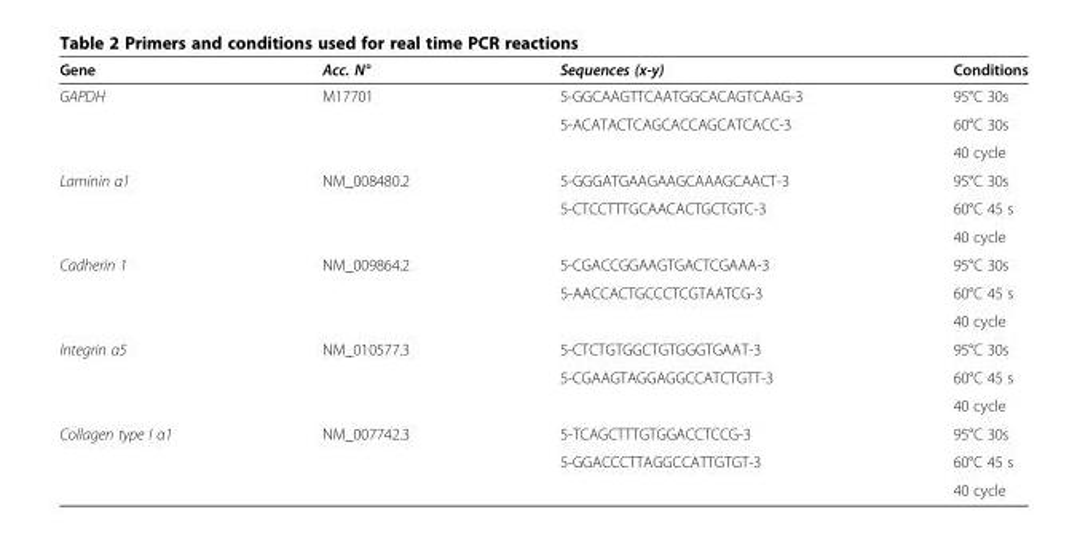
<table><thead><tr><td>Gene</td><td>Acc. N°</td><td>Sequences (x-y)</td><td>Conditions</td></tr></thead><tbody><tr><td rowspan="3">GAPDH</td><td rowspan="3">M17701</td><td>5-GGCAAGTTCAATGGCACAGTCAAG-3</td><td>95°C 30s</td></tr><tr><td rowspan="2">5-ACATACTCAGCACCAGCATCACC-3</td><td>60°C 30s</td></tr><tr><td>40 cycle</td></tr><tr><td rowspan="3">Laminin α1</td><td rowspan="3">NM_008480.2</td><td>5-GGGATGAAGAAGCAAAGCAACT-3</td><td>95°C 30s</td></tr><tr><td rowspan="2">5-CTCCTTTGCAACACTGCTGTC-3</td><td>60°C 45 s</td></tr><tr><td>40 cycle</td></tr><tr><td rowspan="3">Cadherin 1</td><td rowspan="3">NM_009864.2</td><td>5-CGACCGGAAGTGACTCGAAA-3</td><td>95°C 30s</td></tr><tr><td rowspan="2">5-AACCACTGCCCTCGTAATCG-3</td><td>60°C 45 s</td></tr><tr><td>40 cycle</td></tr><tr><td rowspan="3">Integrin α5</td><td rowspan="3">NM_010577.3</td><td>5-CTCTGTGGCTGTGGGTGAAT-3</td><td>95°C 30s</td></tr><tr><td rowspan="2">5-CGAAGTAGGAGGCCATCTGTT-3</td><td>60°C 45 s</td></tr><tr><td>40 cycle</td></tr><tr><td rowspan="3">Collagen type I α1</td><td rowspan="3">NM_007742.3</td><td>5-TCAGCTTTGTGGACCTCCG-3</td><td>95°C 30s</td></tr><tr><td rowspan="2">5-GGACCCTTAGGCCATTGTGT-3</td><td>60°C 45 s</td></tr><tr><td>40 cycle</td></tr></tbody></table>